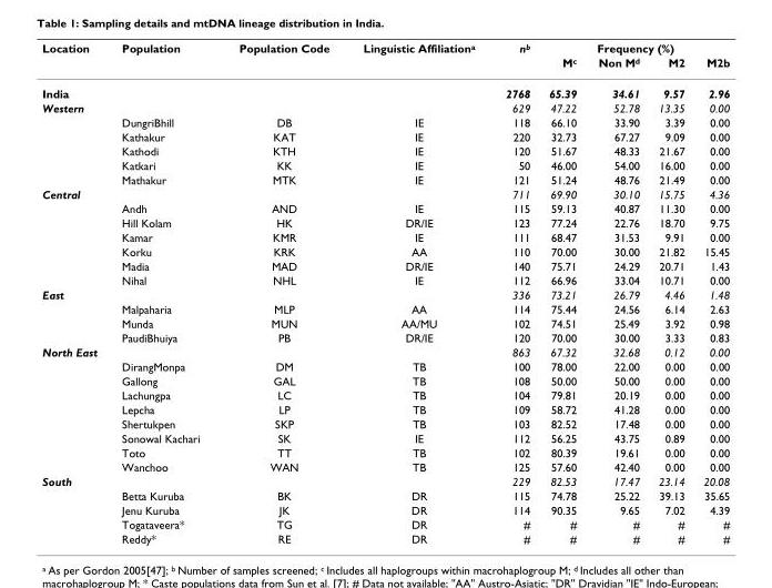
<table><thead><tr><td rowspan="2">Location</td><td rowspan="2">Population</td><td rowspan="2">Population Code</td><td rowspan="2">Linguistic Affiliation<sup>a</sup></td><td rowspan="2">n<sup>b</sup></td><td colspan="4">Frequency (%)</td></tr><tr><td>M<sup>c</sup></td><td>Non M<sup>d</sup></td><td>M2</td><td>M2b</td></tr></thead><tbody><tr><td>India</td><td></td><td></td><td></td><td>2768</td><td>65.39</td><td>34.61</td><td>9.57</td><td>2.96</td></tr><tr><td rowspan="6">Western</td><td></td><td></td><td></td><td>629</td><td>47.22</td><td>52.78</td><td>13.35</td><td>0.00</td></tr><tr><td>DungriBhill</td><td>DB</td><td>IE</td><td>118</td><td>66.10</td><td>33.90</td><td>3.39</td><td>0.00</td></tr><tr><td>Kathakur</td><td>KAT</td><td>IE</td><td>220</td><td>32.73</td><td>67.27</td><td>9.09</td><td>0.00</td></tr><tr><td>Kathodi</td><td>KTH</td><td>IE</td><td>120</td><td>51.67</td><td>48.33</td><td>21.67</td><td>0.00</td></tr><tr><td>Katkari</td><td>KK</td><td>IE</td><td>50</td><td>46.00</td><td>54.00</td><td>16.00</td><td>0.00</td></tr><tr><td>Mathakur</td><td>MTK</td><td>IE</td><td>121</td><td>51.24</td><td>48.76</td><td>21.49</td><td>0.00</td></tr><tr><td rowspan="7">Central</td><td></td><td></td><td></td><td>711</td><td>69.90</td><td>30.10</td><td>15.75</td><td>4.36</td></tr><tr><td>Andh</td><td>AND</td><td>IE</td><td>115</td><td>59.13</td><td>40.87</td><td>11.30</td><td>0.00</td></tr><tr><td>Hill Kolam</td><td>HK</td><td>DR/IE</td><td>123</td><td>77.24</td><td>22.76</td><td>18.70</td><td>9.75</td></tr><tr><td>Kamar</td><td>KMR</td><td>IE</td><td>111</td><td>68.47</td><td>31.53</td><td>9.91</td><td>0.00</td></tr><tr><td>Korku</td><td>KRK</td><td>AA</td><td>110</td><td>70.00</td><td>30.00</td><td>21.82</td><td>15.45</td></tr><tr><td>Madia</td><td>MAD</td><td>DR/IE</td><td>140</td><td>75.71</td><td>24.29</td><td>20.71</td><td>1.43</td></tr><tr><td>Nihal</td><td>NHL</td><td>IE</td><td>112</td><td>66.96</td><td>33.04</td><td>10.71</td><td>0.00</td></tr><tr><td rowspan="4">East</td><td></td><td></td><td></td><td>336</td><td>73.21</td><td>26.79</td><td>4.46</td><td>1.48</td></tr><tr><td>Malpaharia</td><td>MLP</td><td>AA</td><td>114</td><td>75.44</td><td>24.56</td><td>6.14</td><td>2.63</td></tr><tr><td>Munda</td><td>MUN</td><td>AA/MU</td><td>102</td><td>74.51</td><td>25.49</td><td>3.92</td><td>0.98</td></tr><tr><td>PaudiBhuiya</td><td>PB</td><td>DR/IE</td><td>120</td><td>70.00</td><td>30.00</td><td>3.33</td><td>0.83</td></tr><tr><td rowspan="9">North East</td><td></td><td></td><td></td><td>863</td><td>67.32</td><td>32.68</td><td>0.12</td><td>0.00</td></tr><tr><td>DirangMonpa</td><td>DM</td><td>TB</td><td>100</td><td>78.00</td><td>22.00</td><td>0.00</td><td>0.00</td></tr><tr><td>Gallong</td><td>GAL</td><td>TB</td><td>108</td><td>50.00</td><td>50.00</td><td>0.00</td><td>0.00</td></tr><tr><td>Lachungpa</td><td>LC</td><td>TB</td><td>104</td><td>79.81</td><td>20.19</td><td>0.00</td><td>0.00</td></tr><tr><td>Lepcha</td><td>LP</td><td>TB</td><td>109</td><td>58.72</td><td>41.28</td><td>0.00</td><td>0.00</td></tr><tr><td>Shertukpen</td><td>SKP</td><td>TB</td><td>103</td><td>82.52</td><td>17.48</td><td>0.00</td><td>0.00</td></tr><tr><td>Sonowal Kachari</td><td>SK</td><td>IE</td><td>112</td><td>56.25</td><td>43.75</td><td>0.89</td><td>0.00</td></tr><tr><td>Toto</td><td>TT</td><td>TB</td><td>102</td><td>80.39</td><td>19.61</td><td>0.00</td><td>0.00</td></tr><tr><td>Wanchoo</td><td>WAN</td><td>TB</td><td>125</td><td>57.60</td><td>42.40</td><td>0.00</td><td>0.00</td></tr><tr><td rowspan="5">South</td><td></td><td></td><td></td><td>229</td><td>82.53</td><td>17.47</td><td>23.14</td><td>20.08</td></tr><tr><td>Betta Kuruba</td><td>BK</td><td>DR</td><td>115</td><td>74.78</td><td>25.22</td><td>39.13</td><td>35.65</td></tr><tr><td>Jenu Kuruba</td><td>JK</td><td>DR</td><td>114</td><td>90.35</td><td>9.65</td><td>7.02</td><td>4.39</td></tr><tr><td>Togataveera*</td><td>TG</td><td>DR</td><td>#</td><td>#</td><td>#</td><td>#</td><td>#</td></tr><tr><td>Reddy*</td><td>RE</td><td>DR</td><td>#</td><td>#</td><td>#</td><td>#</td><td>#</td></tr></tbody></table>